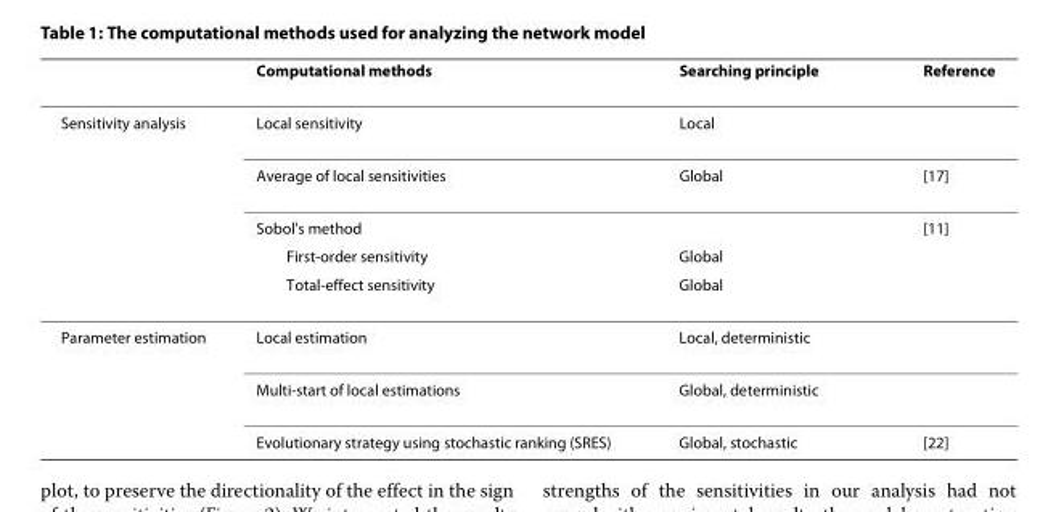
<table><thead><tr><td></td><td>Computational methods</td><td>Searching principle</td><td>Reference</td></tr></thead><tbody><tr><td rowspan="5">Sensitivity analysis</td><td>Local sensitivity</td><td>Local</td><td></td></tr><tr><td>Average of local sensitivities</td><td>Global</td><td>[17]</td></tr><tr><td>Sobol&#x27;s method</td><td></td><td>[11]</td></tr><tr><td>First-order sensitivity</td><td>Global</td><td></td></tr><tr><td>Total-effect sensitivity</td><td>Global</td><td></td></tr><tr><td rowspan="3">Parameter estimation</td><td>Local estimation</td><td>Local, deterministic</td><td></td></tr><tr><td>Multi-start of local estimations</td><td>Global, deterministic</td><td></td></tr><tr><td>Evolutionary strategy using stochastic ranking (SRES)</td><td>Global, stochastic</td><td>[22]</td></tr></tbody></table>